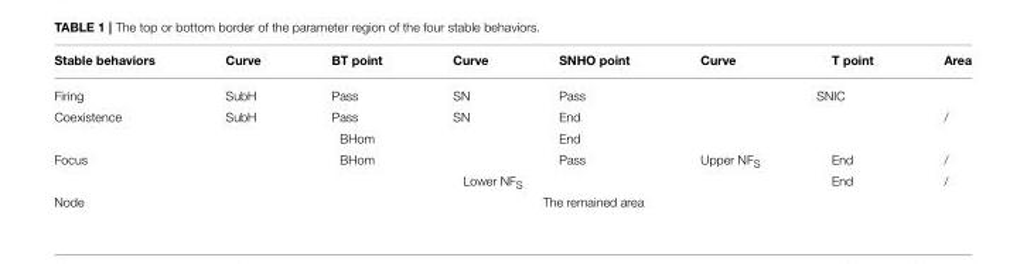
<table><thead><tr><td>Stable behaviors</td><td>Curve</td><td>BT point</td><td>Curve</td><td>SNHO point</td><td>Curve</td><td>T point</td><td>Area</td></tr></thead><tbody><tr><td>Firing</td><td>SubH</td><td>Pass</td><td>SN</td><td>Pass</td><td colspan="3">SNIC</td></tr><tr><td rowspan="2">Coexistence</td><td>SubH</td><td>Pass</td><td>SN</td><td>End</td><td></td><td></td><td>/</td></tr><tr><td colspan="3">BHom</td><td>End</td><td></td><td></td><td></td></tr><tr><td rowspan="2">Focus</td><td colspan="3">BHom</td><td>Pass</td><td>Upper NF<sub>S</sub></td><td>End</td><td>/</td></tr><tr><td colspan="5">Lower NF<sub>S</sub></td><td>End</td><td>/</td></tr><tr><td>Node</td><td colspan="7">The remained area</td></tr></tbody></table>